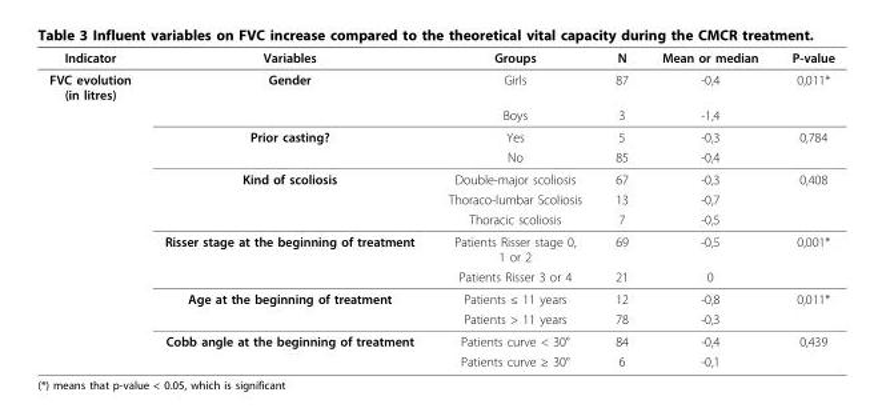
<table><thead><tr><td>Indicator</td><td>Variables</td><td>Groups</td><td>N</td><td>Mean or median</td><td>P-value</td></tr></thead><tbody><tr><td rowspan="13">FVC evolution (in litres)</td><td>Gender</td><td>Girls</td><td>87</td><td>-0,4</td><td>0,011*</td></tr><tr><td></td><td>Boys</td><td>3</td><td>-1,4</td><td></td></tr><tr><td>Prior casting?</td><td>Yes</td><td>5</td><td>-0,3</td><td>0,784</td></tr><tr><td></td><td>No</td><td>85</td><td>-0,4</td><td></td></tr><tr><td>Kind of scoliosis</td><td>Double-major scoliosis</td><td>67</td><td>-0,3</td><td>0,408</td></tr><tr><td></td><td>Thoraco-lumbar Scoliosis</td><td>13</td><td>-0,7</td><td></td></tr><tr><td></td><td>Thoracic scoliosis</td><td>7</td><td>-0,5</td><td></td></tr><tr><td>Risser stage at the beginning of treatment</td><td>Patients Risser stage 0, 1 or 2</td><td>69</td><td>-0,5</td><td>0,001*</td></tr><tr><td></td><td>Patients Risser 3 or 4</td><td>21</td><td>0</td><td></td></tr><tr><td>Age at the beginning of treatment</td><td>Patients ≤ 11 years</td><td>12</td><td>-0,8</td><td>0,011*</td></tr><tr><td></td><td>Patients &gt; 11 years</td><td>78</td><td>-0,3</td><td></td></tr><tr><td>Cobb angle at the beginning of treatment</td><td>Patients curve &lt; 30°</td><td>84</td><td>-0,4</td><td>0,439</td></tr><tr><td></td><td>Patients curve ≥ 30°</td><td>6</td><td>-0,1</td><td></td></tr></tbody></table>